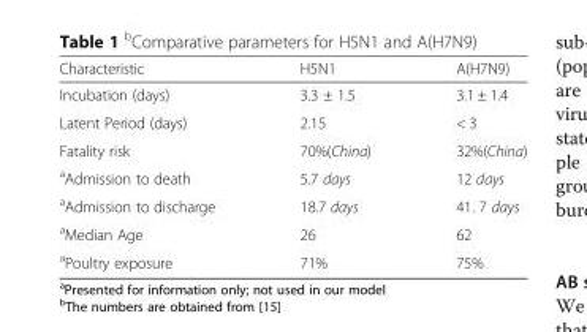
<table><thead><tr><td>Characteristic</td><td>H5N1</td><td>A(H7N9)</td></tr></thead><tbody><tr><td>Incubation (days)</td><td>3.3 ± 1.5</td><td>3.1 ± 1.4</td></tr><tr><td>Latent Period (days)</td><td>2.15</td><td>&lt; 3</td></tr><tr><td>Fatality risk</td><td>70%(China)</td><td>32%(China)</td></tr><tr><td><sup>a</sup>Admission to death</td><td>5.7 days</td><td>12 days</td></tr><tr><td><sup>a</sup>Admission to discharge</td><td>18.7 days</td><td>41. 7 days</td></tr><tr><td><sup>a</sup>Median Age</td><td>26</td><td>62</td></tr><tr><td><sup>a</sup>Poultry exposure</td><td>71%</td><td>75%</td></tr></tbody></table>